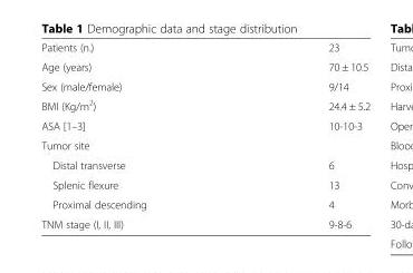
<table><tbody><tr><td>Patients (n.)</td><td>23</td></tr><tr><td>Age (years)</td><td>70 ± 10.5</td></tr><tr><td>Sex (male/female)</td><td>9/14</td></tr><tr><td>BMI (Kg/m<sup>2</sup>)</td><td>24.4 ± 5.2</td></tr><tr><td>ASA [1–3]</td><td>10-10-3</td></tr><tr><td colspan="2">Tumor site</td></tr><tr><td>Distal transverse</td><td>6</td></tr><tr><td>Splenic flexure</td><td>13</td></tr><tr><td>Proximal descending</td><td>4</td></tr><tr><td>TNM stage (I, II, III)</td><td>9-8-6</td></tr></tbody></table>